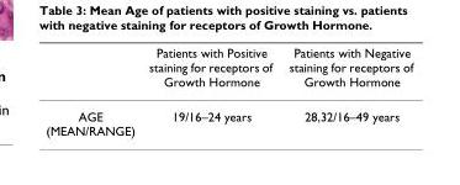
<table><thead><tr><td></td><td>Patients with Positive staining for receptors of Growth Hormone</td><td>Patients with Negative staining for receptors of Growth Hormone</td></tr></thead><tbody><tr><td>AGE (MEAN/RANGE)</td><td>19/16–24 years</td><td>28,32/16–49 years</td></tr></tbody></table>